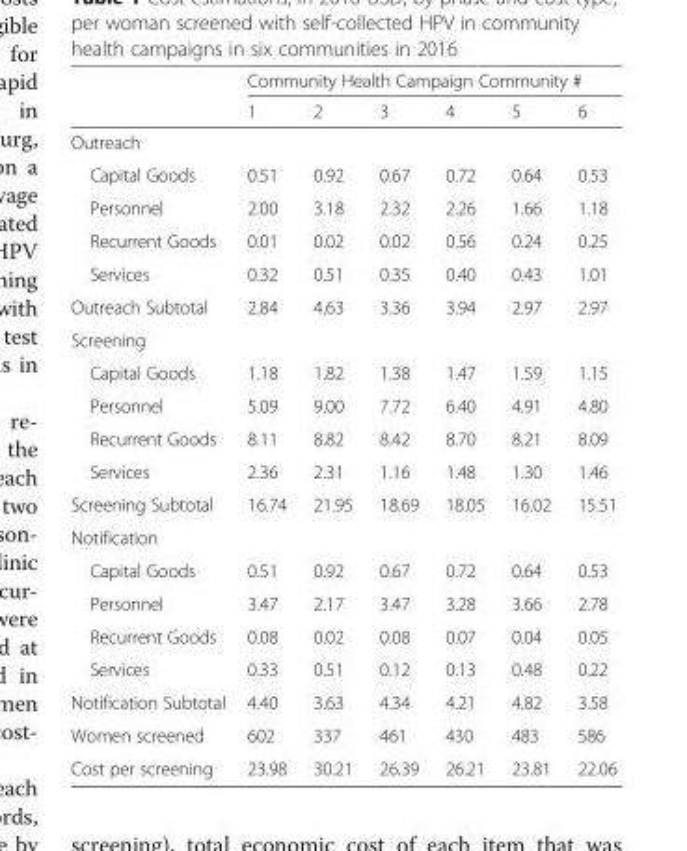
<table><thead><tr><td rowspan="2"></td><td colspan="6">Community Health Campaign Community #</td></tr><tr><td>1</td><td>2</td><td>3</td><td>4</td><td>5</td><td>6</td></tr></thead><tbody><tr><td colspan="7">Outreach</td></tr><tr><td>Capital Goods</td><td>0.51</td><td>0.92</td><td>0.67</td><td>0.72</td><td>0.64</td><td>0.53</td></tr><tr><td>Personnel</td><td>2.00</td><td>3.18</td><td>2.32</td><td>2.26</td><td>1.66</td><td>1.18</td></tr><tr><td>Recurrent Goods</td><td>0.01</td><td>0.02</td><td>0.02</td><td>0.56</td><td>0.24</td><td>0.25</td></tr><tr><td>Services</td><td>0.32</td><td>0.51</td><td>0.35</td><td>0.40</td><td>0.43</td><td>1.01</td></tr><tr><td>Outreach Subtotal</td><td>2.84</td><td>4.63</td><td>3.36</td><td>3.94</td><td>2.97</td><td>2.97</td></tr><tr><td colspan="7">Screening</td></tr><tr><td>Capital Goods</td><td>1.18</td><td>1.82</td><td>1.38</td><td>1.47</td><td>1.59</td><td>1.15</td></tr><tr><td>Personnel</td><td>5.09</td><td>9.00</td><td>7.72</td><td>6.40</td><td>4.91</td><td>4.80</td></tr><tr><td>Recurrent Goods</td><td>8.11</td><td>8.82</td><td>8.42</td><td>8.70</td><td>8.21</td><td>8.09</td></tr><tr><td>Services</td><td>2.36</td><td>2.31</td><td>1.16</td><td>1.48</td><td>1.30</td><td>1.46</td></tr><tr><td>Screening Subtotal</td><td>16.74</td><td>21.95</td><td>18.69</td><td>18.05</td><td>16.02</td><td>15.51</td></tr><tr><td colspan="7">Notification</td></tr><tr><td>Capital Goods</td><td>0.51</td><td>0.92</td><td>0.67</td><td>0.72</td><td>0.64</td><td>0.53</td></tr><tr><td>Personnel</td><td>3.47</td><td>2.17</td><td>3.47</td><td>3.28</td><td>3.66</td><td>2.78</td></tr><tr><td>Recurrent Goods</td><td>0.08</td><td>0.02</td><td>0.08</td><td>0.07</td><td>0.04</td><td>0.05</td></tr><tr><td>Services</td><td>0.33</td><td>0.51</td><td>0.12</td><td>0.13</td><td>0.48</td><td>0.22</td></tr><tr><td>Notification Subtotal</td><td>4.40</td><td>3.63</td><td>4.34</td><td>4.21</td><td>4.82</td><td>3.58</td></tr><tr><td>Women screened</td><td>602</td><td>337</td><td>461</td><td>430</td><td>483</td><td>586</td></tr><tr><td>Cost per screening</td><td>23.98</td><td>30.21</td><td>26.39</td><td>26.21</td><td>23.81</td><td>22.06</td></tr></tbody></table>